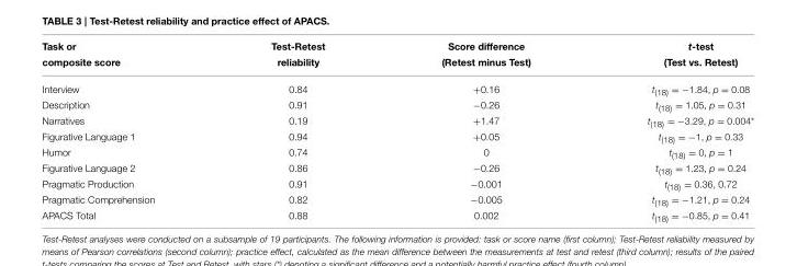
<table><thead><tr><td>Task or composite score</td><td>Test-Retest reliability</td><td>Score difference (Retest minus Test)</td><td>t-test (Test vs. Retest)</td></tr></thead><tbody><tr><td>Interview</td><td>0.84</td><td>+0.16</td><td>t<sub>(18)</sub> = −1.84, p = 0.08</td></tr><tr><td>Description</td><td>0.91</td><td>−0.26</td><td>t<sub>(18)</sub> = 1.05, p = 0.31</td></tr><tr><td>Narratives</td><td>0.19</td><td>+1.47</td><td>t<sub>(18)</sub> = −3.29, p = 0.004*</td></tr><tr><td>Figurative Language 1</td><td>0.94</td><td>+0.05</td><td>t<sub>(18)</sub> = −1, p = 0.33</td></tr><tr><td>Humor</td><td>0.74</td><td>0</td><td>t<sub>(18)</sub> = 0, p = 1</td></tr><tr><td>Figurative Language 2</td><td>0.86</td><td>−0.26</td><td>t<sub>(18)</sub> = 1.23, p = 0.24</td></tr><tr><td>Pragmatic Production</td><td>0.91</td><td>−0.001</td><td>t<sub>(18)</sub> = 0.36, 0.72</td></tr><tr><td>Pragmatic Comprehension</td><td>0.82</td><td>−0.005</td><td>t<sub>(18)</sub> = −1.21, p = 0.24</td></tr><tr><td>APACS Total</td><td>0.88</td><td>0.002</td><td>t<sub>(18)</sub> = −0.85, p = 0.41</td></tr></tbody></table>